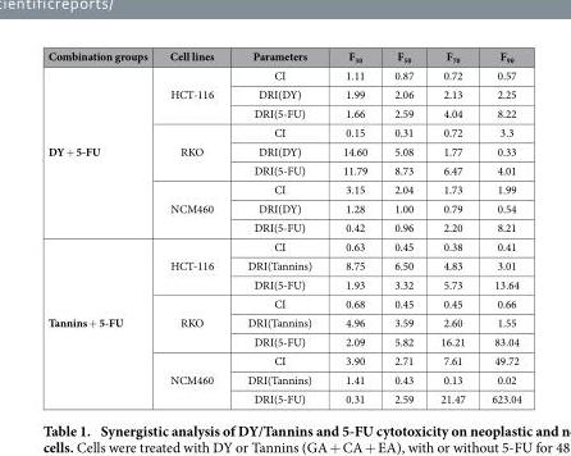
<table><thead><tr><td>Combination groups</td><td>Cell lines</td><td>Parameters</td><td>F<sub>30</sub></td><td>F<sub>50</sub></td><td>F<sub>70</sub></td><td>F<sub>90</sub></td></tr></thead><tbody><tr><td rowspan="9">DY + 5-FU</td><td rowspan="3">HCT-116</td><td>CI</td><td>1.11</td><td>0.87</td><td>0.72</td><td>0.57</td></tr><tr><td>DRI(DY)</td><td>1.99</td><td>2.06</td><td>2.13</td><td>2.25</td></tr><tr><td>DRI(5-FU)</td><td>1.66</td><td>2.59</td><td>4.04</td><td>8.22</td></tr><tr><td rowspan="3">RKO</td><td>CI</td><td>0.15</td><td>0.31</td><td>0.72</td><td>3.3</td></tr><tr><td>DRI(DY)</td><td>14.60</td><td>5.08</td><td>1.77</td><td>0.33</td></tr><tr><td>DRI(5-FU)</td><td>11.79</td><td>8.73</td><td>6.47</td><td>4.01</td></tr><tr><td rowspan="3">NCM460</td><td>CI</td><td>3.15</td><td>2.04</td><td>1.73</td><td>1.99</td></tr><tr><td>DRI(DY)</td><td>1.28</td><td>1.00</td><td>0.79</td><td>0.54</td></tr><tr><td>DRI(5-FU)</td><td>0.42</td><td>0.96</td><td>2.20</td><td>8.21</td></tr><tr><td rowspan="9">Tannins + 5-FU</td><td rowspan="3">HCT-116</td><td>CI</td><td>0.63</td><td>0.45</td><td>0.38</td><td>0.41</td></tr><tr><td>DRI(Tannins)</td><td>8.75</td><td>6.50</td><td>4.83</td><td>3.01</td></tr><tr><td>DRI(5-FU)</td><td>1.93</td><td>3.32</td><td>5.73</td><td>13.64</td></tr><tr><td rowspan="3">RKO</td><td>CI</td><td>0.68</td><td>0.45</td><td>0.45</td><td>0.66</td></tr><tr><td>DRI(Tannins)</td><td>4.96</td><td>3.59</td><td>2.60</td><td>1.55</td></tr><tr><td>DRI(5-FU)</td><td>2.09</td><td>5.82</td><td>16.21</td><td>83.04</td></tr><tr><td rowspan="3">NCM460</td><td>CI</td><td>3.90</td><td>2.71</td><td>7.61</td><td>49.72</td></tr><tr><td>DRI(Tannins)</td><td>1.41</td><td>0.43</td><td>0.13</td><td>0.02</td></tr><tr><td>DRI(5-FU)</td><td>0.31</td><td>2.59</td><td>21.47</td><td>623.04</td></tr></tbody></table>